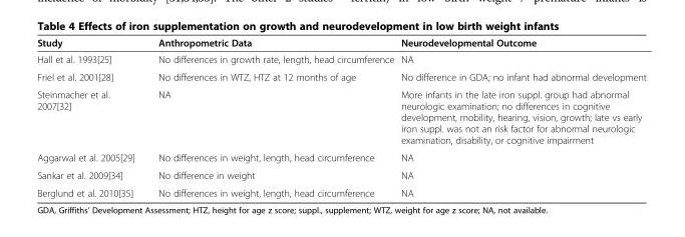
<table><thead><tr><td>Study</td><td>Anthropometric Data</td><td>Neurodevelopmental Outcome</td></tr></thead><tbody><tr><td>Hall et al. 1993[25]</td><td>No differences in growth rate, length, head circumference</td><td>NA</td></tr><tr><td>Friel et al. 2001[28]</td><td>No differences in WTZ, HTZ at 12 months of age</td><td>No difference in GDA; no infant had abnormal development</td></tr><tr><td>Steinmacher et al. 2007[32]</td><td>NA</td><td>More infants in the late iron suppl. group had abnormal neurologic examination; no differences in cognitive development, mobility, hearing, vision, growth; late vs early iron suppl. was not an risk factor for abnormal neurologic examination, disability, or cognitive impairment</td></tr><tr><td>Aggarwal et al. 2005[29]</td><td>No differences in weight, length, head circumference</td><td>NA</td></tr><tr><td>Sankar et al. 2009[34]</td><td>No difference in weight</td><td>NA</td></tr><tr><td>Berglund et al. 2010[35]</td><td>No differences in weight, length, head circumference</td><td>NA</td></tr></tbody></table>